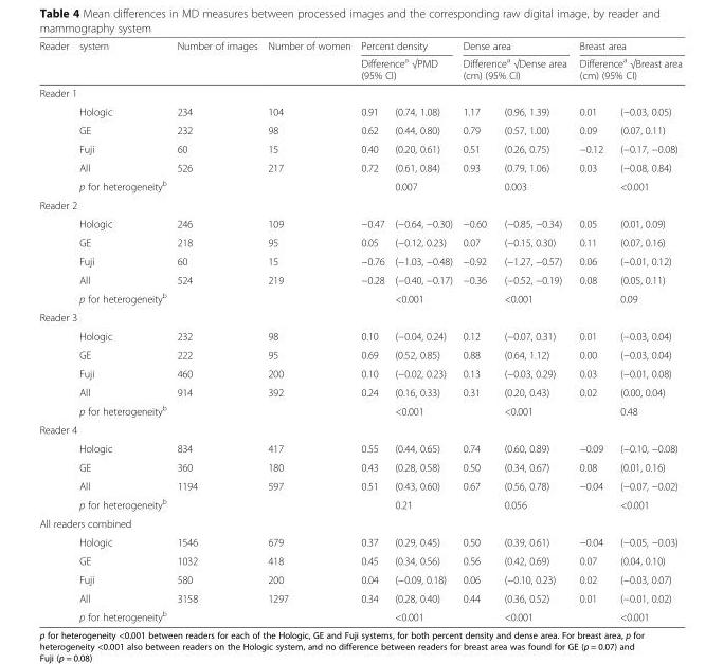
<table><thead><tr><td rowspan="2">Reader</td><td rowspan="2">system</td><td rowspan="2">Number of images</td><td rowspan="2">Number of women</td><td rowspan="2" colspan="2">Percent density Difference<sup>a</sup> √PMD (95% CI)</td><td rowspan="2" colspan="2">Dense area Difference<sup>a</sup> √Dense area (cm) (95% CI)</td><td rowspan="2" colspan="2">Breast area Difference<sup>a</sup> √Breast area (cm) (95% CI)</td></tr><tr></tr><tr><td colspan="10">Reader 1</td></tr><tr><td></td><td>Hologic</td><td>234</td><td>104</td><td>0.91</td><td>(0.74, 1.08)</td><td>1.17</td><td>(0.96, 1.39)</td><td>0.01</td><td>(−0.03, 0.05)</td></tr></thead><tbody><tr><td></td><td>GE</td><td>232</td><td>98</td><td>0.62</td><td>(0.44, 0.80)</td><td>0.79</td><td>(0.57, 1.00)</td><td>0.09</td><td>(0.07, 0.11)</td></tr><tr><td></td><td>Fuji</td><td>60</td><td>15</td><td>0.40</td><td>(0.20, 0.61)</td><td>0.51</td><td>(0.26, 0.75)</td><td>−0.12</td><td>(−0.17, −0.08)</td></tr><tr><td></td><td>All</td><td>526</td><td>217</td><td>0.72</td><td>(0.61, 0.84)</td><td>0.93</td><td>(0.79, 1.06)</td><td>0.03</td><td>(−0.08, 0.84)</td></tr><tr><td></td><td>p for heterogeneity<sup>b</sup></td><td></td><td></td><td></td><td>0.007</td><td></td><td>0.003</td><td></td><td>&lt;0.001</td></tr><tr><td colspan="10">Reader 2</td></tr><tr><td></td><td>Hologic</td><td>246</td><td>109</td><td>−0.47</td><td>(−0.64, −0.30)</td><td>−0.60</td><td>(−0.85, −0.34)</td><td>0.05</td><td>(0.01, 0.09)</td></tr><tr><td></td><td>GE</td><td>218</td><td>95</td><td>0.05</td><td>(−0.12, 0.23)</td><td>0.07</td><td>(−0.15, 0.30)</td><td>0.11</td><td>(0.07, 0.16)</td></tr><tr><td></td><td>Fuji</td><td>60</td><td>15</td><td>−0.76</td><td>(−1.03, −0.48)</td><td>−0.92</td><td>(−1.27, −0.57)</td><td>0.06</td><td>(−0.01, 0.12)</td></tr><tr><td></td><td>All</td><td>524</td><td>219</td><td>−0.28</td><td>(−0.40, −0.17)</td><td>−0.36</td><td>(−0.52, −0.19)</td><td>0.08</td><td>(0.05, 0.11)</td></tr><tr><td></td><td>p for heterogeneity<sup>b</sup></td><td></td><td></td><td></td><td>&lt;0.001</td><td></td><td>&lt;0.001</td><td></td><td>0.09</td></tr><tr><td colspan="10">Reader 3</td></tr><tr><td></td><td>Hologic</td><td>232</td><td>98</td><td>0.10</td><td>(−0.04, 0.24)</td><td>0.12</td><td>(−0.07, 0.31)</td><td>0.01</td><td>(−0.03, 0.04)</td></tr><tr><td></td><td>GE</td><td>222</td><td>95</td><td>0.69</td><td>(0.52, 0.85)</td><td>0.88</td><td>(0.64, 1.12)</td><td>0.00</td><td>(−0.03, 0.04)</td></tr><tr><td></td><td>Fuji</td><td>460</td><td>200</td><td>0.10</td><td>(−0.02, 0.23)</td><td>0.13</td><td>(−0.03, 0.29)</td><td>0.03</td><td>(−0.01, 0.08)</td></tr><tr><td></td><td>All</td><td>914</td><td>392</td><td>0.24</td><td>(0.16, 0.33)</td><td>0.31</td><td>(0.20, 0.43)</td><td>0.02</td><td>(0.00, 0.04)</td></tr><tr><td></td><td>p for heterogeneity<sup>b</sup></td><td></td><td></td><td></td><td>&lt;0.001</td><td></td><td>&lt;0.001</td><td></td><td>0.48</td></tr><tr><td colspan="10">Reader 4</td></tr><tr><td></td><td>Hologic</td><td>834</td><td>417</td><td>0.55</td><td>(0.44, 0.65)</td><td>0.74</td><td>(0.60, 0.89)</td><td>−0.09</td><td>(−0.10, −0.08)</td></tr><tr><td></td><td>GE</td><td>360</td><td>180</td><td>0.43</td><td>(0.28, 0.58)</td><td>0.50</td><td>(0.34, 0.67)</td><td>0.08</td><td>(0.01, 0.16)</td></tr><tr><td></td><td>All</td><td>1194</td><td>597</td><td>0.51</td><td>(0.43, 0.60)</td><td>0.67</td><td>(0.56, 0.78)</td><td>−0.04</td><td>(−0.07, −0.02)</td></tr><tr><td></td><td>p for heterogeneity<sup>b</sup></td><td></td><td></td><td></td><td>0.21</td><td></td><td>0.056</td><td></td><td>&lt;0.001</td></tr><tr><td colspan="10">All readers combined</td></tr><tr><td></td><td>Hologic</td><td>1546</td><td>679</td><td>0.37</td><td>(0.29, 0.45)</td><td>0.50</td><td>(0.39, 0.61)</td><td>−0.04</td><td>(−0.05, −0.03)</td></tr><tr><td></td><td>GE</td><td>1032</td><td>418</td><td>0.45</td><td>(0.34, 0.56)</td><td>0.56</td><td>(0.42, 0.69)</td><td>0.07</td><td>(0.04, 0.10)</td></tr><tr><td></td><td>Fuji</td><td>580</td><td>200</td><td>0.04</td><td>(−0.09, 0.18)</td><td>0.06</td><td>(−0.10, 0.23)</td><td>0.02</td><td>(−0.03, 0.07)</td></tr><tr><td></td><td>All</td><td>3158</td><td>1297</td><td>0.34</td><td>(0.28, 0.40)</td><td>0.44</td><td>(0.36, 0.52)</td><td>0.01</td><td>(−0.01, 0.02)</td></tr><tr><td></td><td>p for heterogeneity<sup>b</sup></td><td></td><td></td><td></td><td>&lt;0.001</td><td></td><td>&lt;0.001</td><td></td><td>&lt;0.001</td></tr></tbody></table>